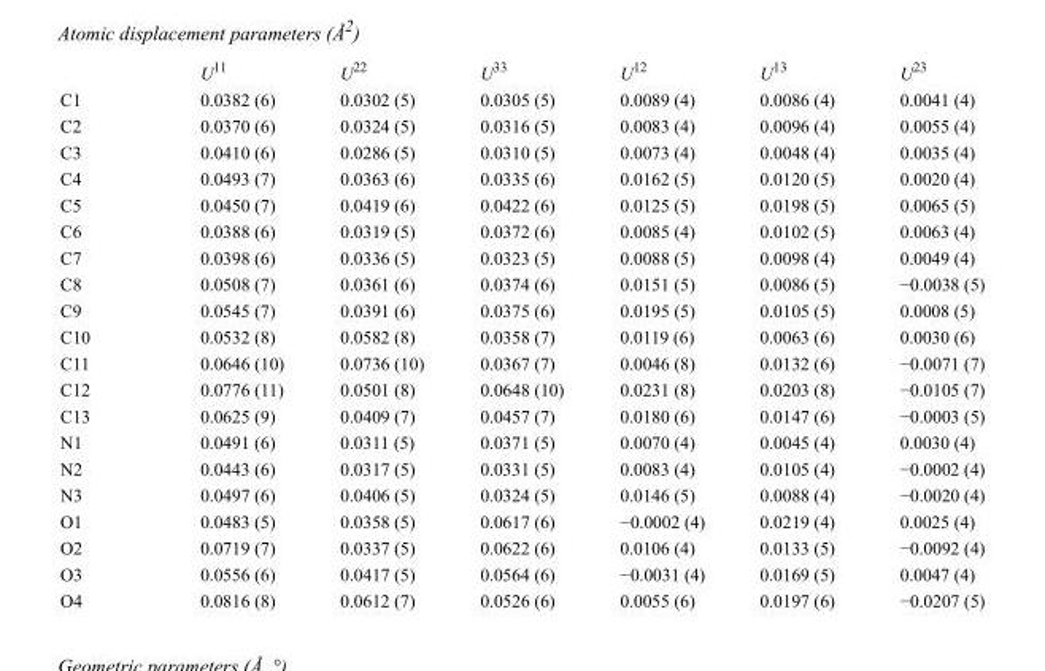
<table><thead><tr><td></td><td>U<sup>11</sup></td><td>U<sup>22</sup></td><td>U<sup>33</sup></td><td>U<sup>12</sup></td><td>U<sup>13</sup></td><td>U<sup>23</sup></td></tr></thead><tbody><tr><td>C1</td><td>0.0382 (6)</td><td>0.0302 (5)</td><td>0.0305 (5)</td><td>0.0089 (4)</td><td>0.0086 (4)</td><td>0.0041 (4)</td></tr><tr><td>C2</td><td>0.0370 (6)</td><td>0.0324 (5)</td><td>0.0316 (5)</td><td>0.0083 (4)</td><td>0.0096 (4)</td><td>0.0055 (4)</td></tr><tr><td>C3</td><td>0.0410 (6)</td><td>0.0286 (5)</td><td>0.0310 (5)</td><td>0.0073 (4)</td><td>0.0048 (4)</td><td>0.0035 (4)</td></tr><tr><td>C4</td><td>0.0493 (7)</td><td>0.0363 (6)</td><td>0.0335 (6)</td><td>0.0162 (5)</td><td>0.0120 (5)</td><td>0.0020 (4)</td></tr><tr><td>C5</td><td>0.0450 (7)</td><td>0.0419 (6)</td><td>0.0422 (6)</td><td>0.0125 (5)</td><td>0.0198 (5)</td><td>0.0065 (5)</td></tr><tr><td>C6</td><td>0.0388 (6)</td><td>0.0319 (5)</td><td>0.0372 (6)</td><td>0.0085 (4)</td><td>0.0102 (5)</td><td>0.0063 (4)</td></tr><tr><td>C7</td><td>0.0398 (6)</td><td>0.0336 (5)</td><td>0.0323 (5)</td><td>0.0088 (5)</td><td>0.0098 (4)</td><td>0.0049 (4)</td></tr><tr><td>C8</td><td>0.0508 (7)</td><td>0.0361 (6)</td><td>0.0374 (6)</td><td>0.0151 (5)</td><td>0.0086 (5)</td><td>−0.0038 (5)</td></tr><tr><td>C9</td><td>0.0545 (7)</td><td>0.0391 (6)</td><td>0.0375 (6)</td><td>0.0195 (5)</td><td>0.0105 (5)</td><td>0.0008 (5)</td></tr><tr><td>C10</td><td>0.0532 (8)</td><td>0.0582 (8)</td><td>0.0358 (7)</td><td>0.0119 (6)</td><td>0.0063 (6)</td><td>0.0030 (6)</td></tr><tr><td>C11</td><td>0.0646 (10)</td><td>0.0736 (10)</td><td>0.0367 (7)</td><td>0.0046 (8)</td><td>0.0132 (6)</td><td>−0.0071 (7)</td></tr><tr><td>C12</td><td>0.0776 (11)</td><td>0.0501 (8)</td><td>0.0648 (10)</td><td>0.0231 (8)</td><td>0.0203 (8)</td><td>−0.0105 (7)</td></tr><tr><td>C13</td><td>0.0625 (9)</td><td>0.0409 (7)</td><td>0.0457 (7)</td><td>0.0180 (6)</td><td>0.0147 (6)</td><td>−0.0003 (5)</td></tr><tr><td>N1</td><td>0.0491 (6)</td><td>0.0311 (5)</td><td>0.0371 (5)</td><td>0.0070 (4)</td><td>0.0045 (4)</td><td>0.0030 (4)</td></tr><tr><td>N2</td><td>0.0443 (6)</td><td>0.0317 (5)</td><td>0.0331 (5)</td><td>0.0083 (4)</td><td>0.0105 (4)</td><td>−0.0002 (4)</td></tr><tr><td>N3</td><td>0.0497 (6)</td><td>0.0406 (5)</td><td>0.0324 (5)</td><td>0.0146 (5)</td><td>0.0088 (4)</td><td>−0.0020 (4)</td></tr><tr><td>O1</td><td>0.0483 (5)</td><td>0.0358 (5)</td><td>0.0617 (6)</td><td>−0.0002 (4)</td><td>0.0219 (4)</td><td>0.0025 (4)</td></tr><tr><td>O2</td><td>0.0719 (7)</td><td>0.0337 (5)</td><td>0.0622 (6)</td><td>0.0106 (4)</td><td>0.0133 (5)</td><td>−0.0092 (4)</td></tr><tr><td>O3</td><td>0.0556 (6)</td><td>0.0417 (5)</td><td>0.0564 (6)</td><td>−0.0031 (4)</td><td>0.0169 (5)</td><td>0.0047 (4)</td></tr><tr><td>O4</td><td>0.0816 (8)</td><td>0.0612 (7)</td><td>0.0526 (6)</td><td>0.0055 (6)</td><td>0.0197 (6)</td><td>−0.0207 (5)</td></tr></tbody></table>